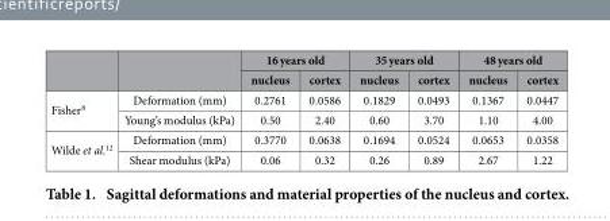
<table><thead><tr><td rowspan="2"></td><td rowspan="2"></td><td colspan="2">16 years old</td><td colspan="2">35 years old</td><td colspan="2">48 years old</td></tr><tr><td>nucleus</td><td>cortex</td><td>nucleus</td><td>cortex</td><td>nucleus</td><td>cortex</td></tr></thead><tbody><tr><td rowspan="2">Fisher<sup>8</sup></td><td>Deformation (mm)</td><td>0.2761</td><td>0.0586</td><td>0.1829</td><td>0.0493</td><td>0.1367</td><td>0.0447</td></tr><tr><td>Young’s modulus (kPa)</td><td>0.50</td><td>2.40</td><td>0.60</td><td>3.70</td><td>1.10</td><td>4.00</td></tr><tr><td rowspan="2">Wilde et al.<sup>12</sup></td><td>Deformation (mm)</td><td>0.3770</td><td>0.0638</td><td>0.1694</td><td>0.0524</td><td>0.0653</td><td>0.0358</td></tr><tr><td>Shear modulus (kPa)</td><td>0.06</td><td>0.32</td><td>0.26</td><td>0.89</td><td>2.67</td><td>1.22</td></tr></tbody></table>